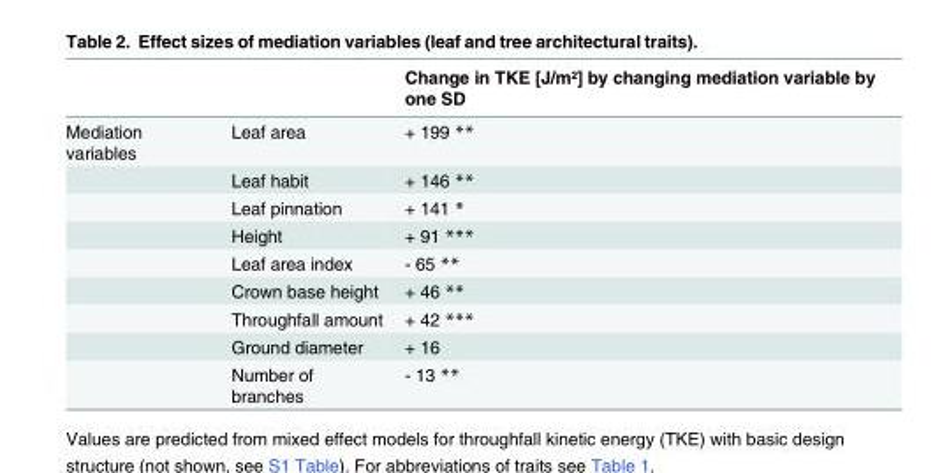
<table><thead><tr><td></td><td></td><td>Change in TKE [J/m²] by changing mediation variable by one SD</td></tr></thead><tbody><tr><td rowspan="9">Mediation variables</td><td>Leaf area</td><td>+ 199 **</td></tr><tr><td>Leaf habit</td><td>+ 146 **</td></tr><tr><td>Leaf pinnation</td><td>+ 141 *</td></tr><tr><td>Height</td><td>+ 91 ***</td></tr><tr><td>Leaf area index</td><td>- 65 **</td></tr><tr><td>Crown base height</td><td>+ 46 **</td></tr><tr><td>Throughfall amount</td><td>+ 42 ***</td></tr><tr><td>Ground diameter</td><td>+ 16</td></tr><tr><td>Number of branches</td><td>- 13 **</td></tr></tbody></table>